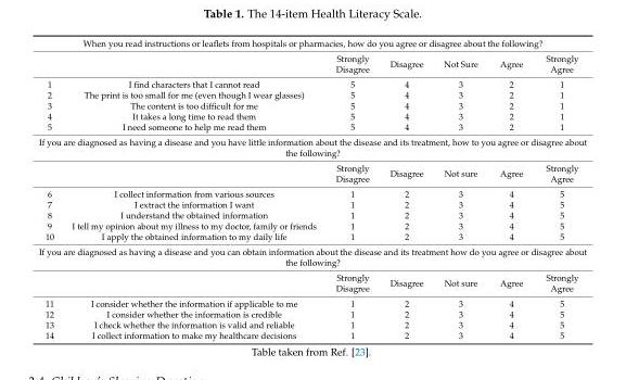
<table><tbody><tr><td colspan="7">When you read instructions or leaflets from hospitals or pharmacies, how do you agree or disagree about the following?</td></tr><tr><td></td><td></td><td>Strongly Disagree</td><td>Disagree</td><td>Not Sure</td><td>Agree</td><td>Strongly Agree</td></tr><tr><td>1</td><td>I find characters that I cannot read</td><td>5</td><td>4</td><td>3</td><td>2</td><td>1</td></tr><tr><td>2</td><td>The print is too small for me (even though I wear glasses)</td><td>5</td><td>4</td><td>3</td><td>2</td><td>1</td></tr><tr><td>3</td><td>The content is too difficult for me</td><td>5</td><td>4</td><td>3</td><td>2</td><td>1</td></tr><tr><td>4</td><td>It takes a long time to read them</td><td>5</td><td>4</td><td>3</td><td>2</td><td>1</td></tr><tr><td>5</td><td>I need someone to help me read them</td><td>5</td><td>4</td><td>3</td><td>2</td><td>1</td></tr><tr><td colspan="7">If you are diagnosed as having a disease and you have little information about the disease and its treatment, how to you agree or disagree about the following?</td></tr><tr><td></td><td></td><td>Strongly Disagree</td><td>Disagree</td><td>Not sure</td><td>Agree</td><td>Strongly Agree</td></tr><tr><td>6</td><td>I collect information from various sources</td><td>1</td><td>2</td><td>3</td><td>4</td><td>5</td></tr><tr><td>7</td><td>I extract the information I want</td><td>1</td><td>2</td><td>3</td><td>4</td><td>5</td></tr><tr><td>8</td><td>I understand the obtained information</td><td>1</td><td>2</td><td>3</td><td>4</td><td>5</td></tr><tr><td>9</td><td>I tell my opinion about my illness to my doctor, family or friends</td><td>1</td><td>2</td><td>3</td><td>4</td><td>5</td></tr><tr><td>10</td><td>I apply the obtained information to my daily life</td><td>1</td><td>2</td><td>3</td><td>4</td><td>5</td></tr><tr><td colspan="7">If you are diagnosed as having a disease and you can obtain information about the disease and its treatment how do you agree or disagree about the following?</td></tr><tr><td></td><td></td><td>Strongly Disagree</td><td>Disagree</td><td>Not sure</td><td>Agree</td><td>Strongly Agree</td></tr><tr><td>11</td><td>I consider whether the information if applicable to me</td><td>1</td><td>2</td><td>3</td><td>4</td><td>5</td></tr><tr><td>12</td><td>I consider whether the information is credible</td><td>1</td><td>2</td><td>3</td><td>4</td><td>5</td></tr><tr><td>13</td><td>I check whether the information is valid and reliable</td><td>1</td><td>2</td><td>3</td><td>4</td><td>5</td></tr><tr><td>14</td><td>I collect information to make my healthcare decisions</td><td>1</td><td>2</td><td>3</td><td>4</td><td>5</td></tr></tbody></table>